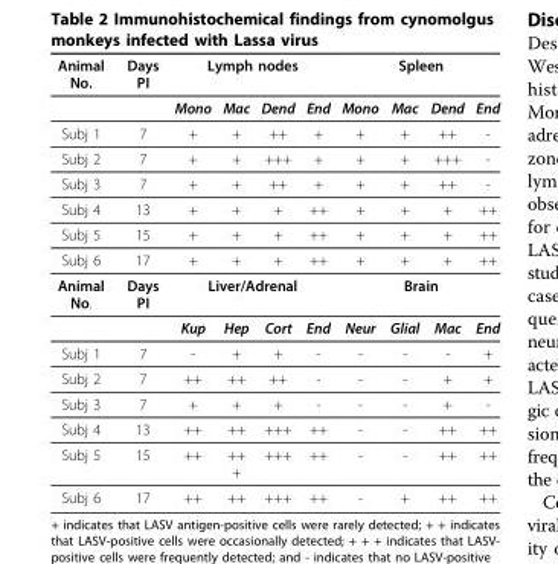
<table><thead><tr><td rowspan="2">Animal No.</td><td rowspan="2">Days PI</td><td colspan="4">Lymph nodes</td><td colspan="4">Spleen</td></tr><tr><td>Mono</td><td>Mac</td><td>Dend</td><td>End</td><td>Mono</td><td>Mac</td><td>Dend</td><td>End</td></tr></thead><tbody><tr><td>Subj 1</td><td>7</td><td>+</td><td>+</td><td>++</td><td>+</td><td>+</td><td>+</td><td>++</td><td>-</td></tr><tr><td>Subj 2</td><td>7</td><td>+</td><td>+</td><td>+++</td><td>+</td><td>+</td><td>+</td><td>+++</td><td>-</td></tr><tr><td>Subj 3</td><td>7</td><td>+</td><td>+</td><td>++</td><td>+</td><td>+</td><td>+</td><td>++</td><td>-</td></tr><tr><td>Subj 4</td><td>13</td><td>+</td><td>+</td><td>+</td><td>++</td><td>+</td><td>+</td><td>+</td><td>++</td></tr><tr><td>Subj 5</td><td>15</td><td>+</td><td>+</td><td>+</td><td>++</td><td>+</td><td>+</td><td>+</td><td>++</td></tr><tr><td>Subj 6</td><td>17</td><td>+</td><td>+</td><td>+</td><td>++</td><td>+</td><td>+</td><td>+</td><td>++</td></tr><tr><td rowspan="2">Animal No.</td><td>Days PI</td><td colspan="4">Liver/Adrenal</td><td colspan="4">Brain</td></tr><tr><td></td><td>Kup</td><td>Hep</td><td>Cort</td><td>End</td><td>Neur</td><td>Glial</td><td>Mac</td><td>End</td></tr><tr><td>Subj 1</td><td>7</td><td>-</td><td>+</td><td>+</td><td>-</td><td>-</td><td>-</td><td>-</td><td>+</td></tr><tr><td>Subj 2</td><td>7</td><td>++</td><td>++</td><td>++</td><td>-</td><td>-</td><td>-</td><td>+</td><td>+</td></tr><tr><td>Subj 3</td><td>7</td><td>+</td><td>+</td><td>+</td><td>-</td><td>-</td><td>-</td><td>+</td><td>-</td></tr><tr><td>Subj 4</td><td>13</td><td>++</td><td>++</td><td>+++</td><td>++</td><td>-</td><td>-</td><td>++</td><td>++</td></tr><tr><td>Subj 5</td><td>15</td><td>++</td><td>++ +</td><td>+++</td><td>++</td><td>-</td><td>-</td><td>++</td><td>++</td></tr><tr><td>Subj 6</td><td>17</td><td>++</td><td>++</td><td>+++</td><td>++</td><td>-</td><td>+</td><td>++</td><td>++</td></tr></tbody></table>